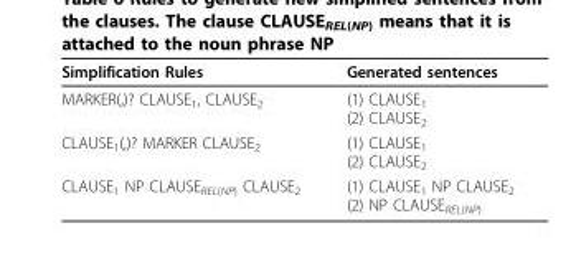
<table><thead><tr><td>Simplification Rules</td><td>Generated sentences</td></tr></thead><tbody><tr><td>MARKER(,)? CLAUSE<sub>1</sub>, CLAUSE<sub>2</sub></td><td>(1) CLAUSE<sub>1</sub> (2) CLAUSE<sub>2</sub></td></tr><tr><td>CLAUSE<sub>1</sub>(,)? MARKER CLAUSE<sub>2</sub></td><td>(1) CLAUSE<sub>1</sub> (2) CLAUSE<sub>2</sub></td></tr><tr><td>CLAUSE<sub>1</sub> NP CLAUSE<sub>REL(NP)</sub> CLAUSE<sub>2</sub></td><td>(1) CLAUSE<sub>1</sub> NP CLAUSE<sub>2</sub> (2) NP CLAUSE<sub>REL(NP)</sub></td></tr></tbody></table>